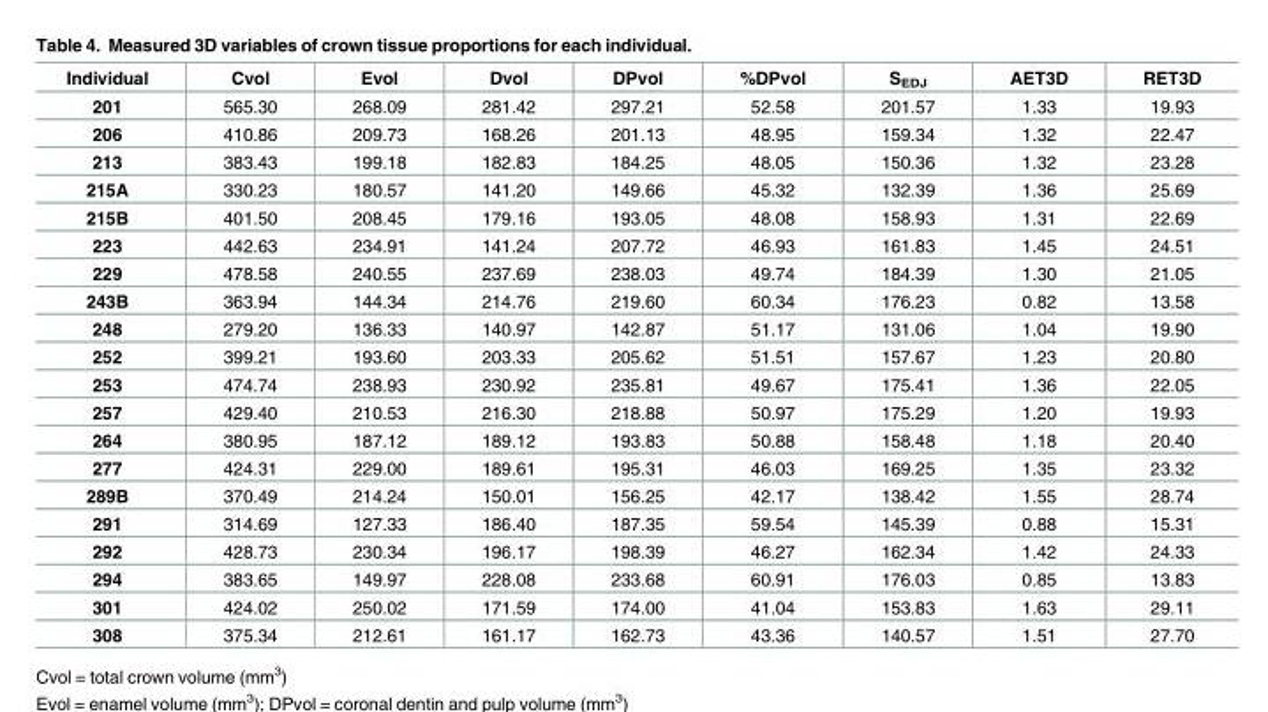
<table><thead><tr><td>Individual</td><td>Cvol</td><td>Evol</td><td>Dvol</td><td>DPvol</td><td>%DPvol</td><td>S<sub>EDJ</sub></td><td>AET3D</td><td>RET3D</td></tr></thead><tbody><tr><td>201</td><td>565.30</td><td>268.09</td><td>281.42</td><td>297.21</td><td>52.58</td><td>201.57</td><td>1.33</td><td>19.93</td></tr><tr><td>206</td><td>410.86</td><td>209.73</td><td>168.26</td><td>201.13</td><td>48.95</td><td>159.34</td><td>1.32</td><td>22.47</td></tr><tr><td>213</td><td>383.43</td><td>199.18</td><td>182.83</td><td>184.25</td><td>48.05</td><td>150.36</td><td>1.32</td><td>23.28</td></tr><tr><td>215A</td><td>330.23</td><td>180.57</td><td>141.20</td><td>149.66</td><td>45.32</td><td>132.39</td><td>1.36</td><td>25.69</td></tr><tr><td>215B</td><td>401.50</td><td>208.45</td><td>179.16</td><td>193.05</td><td>48.08</td><td>158.93</td><td>1.31</td><td>22.69</td></tr><tr><td>223</td><td>442.63</td><td>234.91</td><td>141.24</td><td>207.72</td><td>46.93</td><td>161.83</td><td>1.45</td><td>24.51</td></tr><tr><td>229</td><td>478.58</td><td>240.55</td><td>237.69</td><td>238.03</td><td>49.74</td><td>184.39</td><td>1.30</td><td>21.05</td></tr><tr><td>243B</td><td>363.94</td><td>144.34</td><td>214.76</td><td>219.60</td><td>60.34</td><td>176.23</td><td>0.82</td><td>13.58</td></tr><tr><td>248</td><td>279.20</td><td>136.33</td><td>140.97</td><td>142.87</td><td>51.17</td><td>131.06</td><td>1.04</td><td>19.90</td></tr><tr><td>252</td><td>399.21</td><td>193.60</td><td>203.33</td><td>205.62</td><td>51.51</td><td>157.67</td><td>1.23</td><td>20.80</td></tr><tr><td>253</td><td>474.74</td><td>238.93</td><td>230.92</td><td>235.81</td><td>49.67</td><td>175.41</td><td>1.36</td><td>22.05</td></tr><tr><td>257</td><td>429.40</td><td>210.53</td><td>216.30</td><td>218.88</td><td>50.97</td><td>175.29</td><td>1.20</td><td>19.93</td></tr><tr><td>264</td><td>380.95</td><td>187.12</td><td>189.12</td><td>193.83</td><td>50.88</td><td>158.48</td><td>1.18</td><td>20.40</td></tr><tr><td>277</td><td>424.31</td><td>229.00</td><td>189.61</td><td>195.31</td><td>46.03</td><td>169.25</td><td>1.35</td><td>23.32</td></tr><tr><td>289B</td><td>370.49</td><td>214.24</td><td>150.01</td><td>156.25</td><td>42.17</td><td>138.42</td><td>1.55</td><td>28.74</td></tr><tr><td>291</td><td>314.69</td><td>127.33</td><td>186.40</td><td>187.35</td><td>59.54</td><td>145.39</td><td>0.88</td><td>15.31</td></tr><tr><td>292</td><td>428.73</td><td>230.34</td><td>196.17</td><td>198.39</td><td>46.27</td><td>162.34</td><td>1.42</td><td>24.33</td></tr><tr><td>294</td><td>383.65</td><td>149.97</td><td>228.08</td><td>233.68</td><td>60.91</td><td>176.03</td><td>0.85</td><td>13.83</td></tr><tr><td>301</td><td>424.02</td><td>250.02</td><td>171.59</td><td>174.00</td><td>41.04</td><td>153.83</td><td>1.63</td><td>29.11</td></tr><tr><td>308</td><td>375.34</td><td>212.61</td><td>161.17</td><td>162.73</td><td>43.36</td><td>140.57</td><td>1.51</td><td>27.70</td></tr></tbody></table>